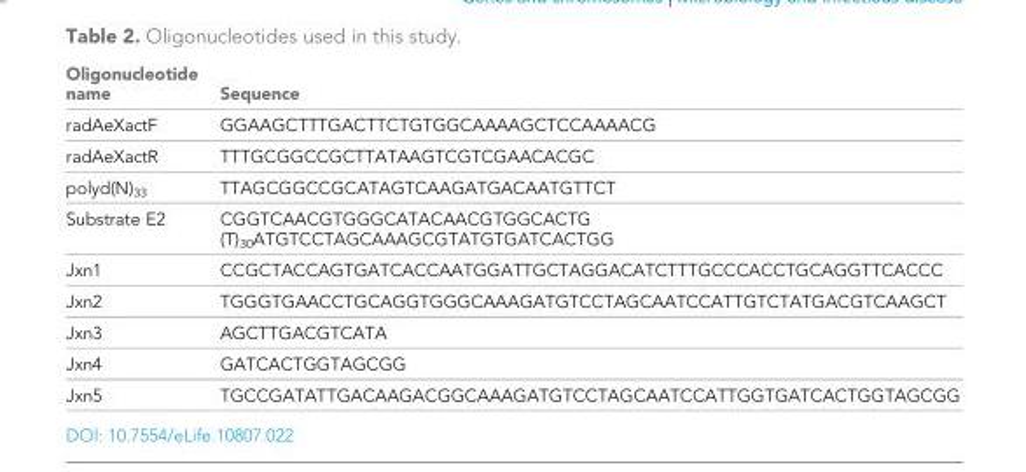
<table><thead><tr><td>Oligonucleotide name</td><td>Sequence</td></tr></thead><tbody><tr><td>radAeXactF</td><td>GGAAGCTTTGACTTCTGTGGCAAAAGCTCCAAAACG</td></tr><tr><td>radAeXactR</td><td>TTTGCGGCCGCTTATAAGTCGTCGAACACGC</td></tr><tr><td>polyd(N)<sub>33</sub></td><td>TTAGCGGCCGCATAGTCAAGATGACAATGTTCT</td></tr><tr><td>Substrate E2</td><td>CGGTCAACGTGGGCATACAACGTGGCACTG (T)<sub>30</sub>ATGTCCTAGCAAAGCGTATGTGATCACTGG</td></tr><tr><td>Jxn1</td><td>CCGCTACCAGTGATCACCAATGGATTGCTAGGACATCTTTGCCCACCTGCAGGTTCACCC</td></tr><tr><td>Jxn2</td><td>TGGGTGAACCTGCAGGTGGGCAAAGATGTCCTAGCAATCCATTGTCTATGACGTCAAGCT</td></tr><tr><td>Jxn3</td><td>AGCTTGACGTCATA</td></tr><tr><td>Jxn4</td><td>GATCACTGGTAGCGG</td></tr><tr><td>Jxn5</td><td>TGCCGATATTGACAAGACGGCAAAGATGTCCTAGCAATCCATTGGTGATCACTGGTAGCGG</td></tr></tbody></table>